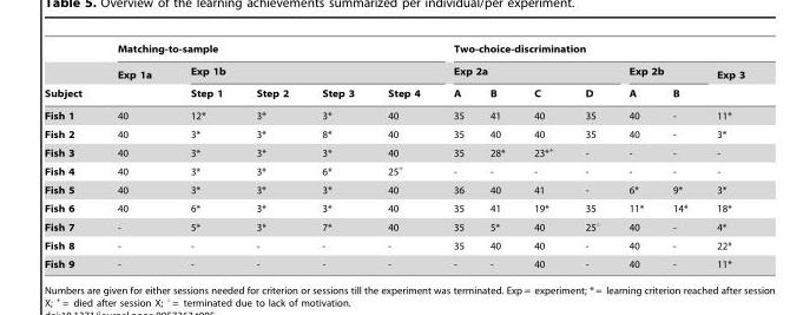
<table><thead><tr><td rowspan="3">Subject</td><td colspan="5">Matching-to-sample</td><td colspan="7">Two-choice-discrimination</td></tr><tr><td rowspan="2">Exp 1a</td><td colspan="4">Exp 1b</td><td colspan="4">Exp 2a</td><td colspan="2">Exp 2b</td><td rowspan="2">Exp 3</td></tr><tr><td>Step 1</td><td>Step 2</td><td>Step 3</td><td>Step 4</td><td>A</td><td>B</td><td>C</td><td>D</td><td>A</td><td>B</td></tr></thead><tbody><tr><td>Fish 1</td><td>40</td><td>12*</td><td>3*</td><td>3*</td><td>40</td><td>35</td><td>41</td><td>40</td><td>35</td><td>40</td><td>-</td><td>11*</td></tr><tr><td>Fish 2</td><td>40</td><td>3*</td><td>3*</td><td>8*</td><td>40</td><td>35</td><td>40</td><td>40</td><td>35</td><td>40</td><td>-</td><td>3*</td></tr><tr><td>Fish 3</td><td>40</td><td>3*</td><td>3*</td><td>3*</td><td>40</td><td>35</td><td>28*</td><td>23*<sup>+</sup></td><td>-</td><td>-</td><td>-</td><td>-</td></tr><tr><td>Fish 4</td><td>40</td><td>3*</td><td>3*</td><td>6*</td><td>25<sup>+</sup></td><td>-</td><td>-</td><td>-</td><td>-</td><td>-</td><td>-</td><td>-</td></tr><tr><td>Fish 5</td><td>40</td><td>3*</td><td>3*</td><td>3*</td><td>40</td><td>36</td><td>40</td><td>41</td><td>-</td><td>6*</td><td>9*</td><td>3*</td></tr><tr><td>Fish 6</td><td>40</td><td>6*</td><td>3*</td><td>3*</td><td>40</td><td>35</td><td>41</td><td>19*</td><td>35</td><td>11*</td><td>14*</td><td>18*</td></tr><tr><td>Fish 7</td><td>-</td><td>5*</td><td>3*</td><td>7*</td><td>40</td><td>35</td><td>5*</td><td>40</td><td>25°</td><td>40</td><td>-</td><td>4*</td></tr><tr><td>Fish 8</td><td>-</td><td>-</td><td>-</td><td>-</td><td>-</td><td>35</td><td>40</td><td>40</td><td>-</td><td>40</td><td>-</td><td>22*</td></tr><tr><td>Fish 9</td><td>-</td><td>-</td><td>-</td><td>-</td><td>-</td><td>-</td><td>-</td><td>40</td><td>-</td><td>40</td><td>-</td><td>11*</td></tr></tbody></table>